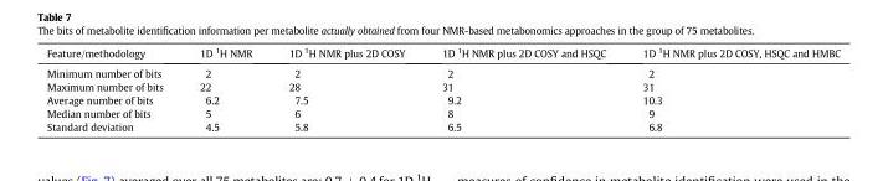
<table><thead><tr><td>Feature/methodology</td><td>1D <sup>1</sup>H NMR</td><td>1D <sup>1</sup>H NMR plus 2D COSY</td><td>1D <sup>1</sup>H NMR plus 2D COSY and HSQC</td><td>1D <sup>1</sup>H NMR plus 2D COSY, HSQC and HMBC</td></tr></thead><tbody><tr><td>Minimum number of bits</td><td>2</td><td>2</td><td>2</td><td>2</td></tr><tr><td>Maximum number of bits</td><td>22</td><td>28</td><td>31</td><td>31</td></tr><tr><td>Average number of bits</td><td>6.2</td><td>7.5</td><td>9.2</td><td>10.3</td></tr><tr><td>Median number of bits</td><td>5</td><td>6</td><td>8</td><td>9</td></tr><tr><td>Standard deviation</td><td>4.5</td><td>5.8</td><td>6.5</td><td>6.8</td></tr></tbody></table>